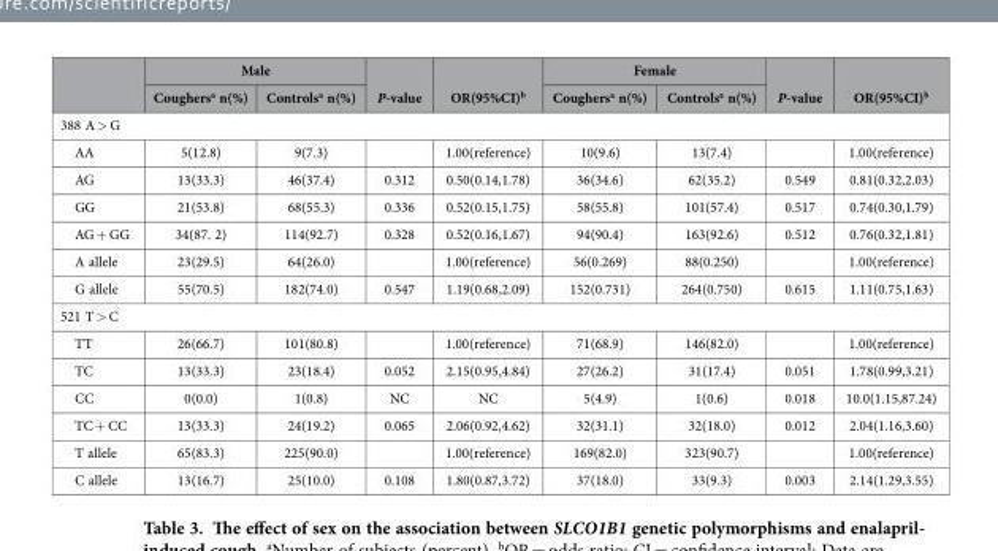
<table><thead><tr><td rowspan="2"></td><td colspan="2">Male</td><td rowspan="2">P-value</td><td rowspan="2">OR(95%CI)<sup>b</sup></td><td colspan="2">Female</td><td rowspan="2">P-value</td><td rowspan="2">OR(95%CI)<sup>b</sup></td></tr><tr><td>Coughers<sup>a</sup> n(%)</td><td>Controls<sup>a</sup> n(%)</td><td>Coughers<sup>a</sup> n(%)</td><td>Controls<sup>a</sup> n(%)</td></tr></thead><tbody><tr><td colspan="9">388 A &gt; G</td></tr><tr><td>AA</td><td>5(12.8)</td><td>9(7.3)</td><td></td><td>1.00(reference)</td><td>10(9.6)</td><td>13(7.4)</td><td></td><td>1.00(reference)</td></tr><tr><td>AG</td><td>13(33.3)</td><td>46(37.4)</td><td>0.312</td><td>0.50(0.14,1.78)</td><td>36(34.6)</td><td>62(35.2)</td><td>0.549</td><td>0.81(0.32,2.03)</td></tr><tr><td>GG</td><td>21(53.8)</td><td>68(55.3)</td><td>0.336</td><td>0.52(0.15,1.75)</td><td>58(55.8)</td><td>101(57.4)</td><td>0.517</td><td>0.74(0.30,1.79)</td></tr><tr><td>AG + GG</td><td>34(87. 2)</td><td>114(92.7)</td><td>0.328</td><td>0.52(0.16,1.67)</td><td>94(90.4)</td><td>163(92.6)</td><td>0.512</td><td>0.76(0.32,1.81)</td></tr><tr><td>A allele</td><td>23(29.5)</td><td>64(26.0)</td><td></td><td>1.00(reference)</td><td>56(0.269)</td><td>88(0.250)</td><td></td><td>1.00(reference)</td></tr><tr><td>G allele</td><td>55(70.5)</td><td>182(74.0)</td><td>0.547</td><td>1.19(0.68,2.09)</td><td>152(0.731)</td><td>264(0.750)</td><td>0.615</td><td>1.11(0.75,1.63)</td></tr><tr><td colspan="9">521 T &gt; C</td></tr><tr><td>TT</td><td>26(66.7)</td><td>101(80.8)</td><td></td><td>1.00(reference)</td><td>71(68.9)</td><td>146(82.0)</td><td></td><td>1.00(reference)</td></tr><tr><td>TC</td><td>13(33.3)</td><td>23(18.4)</td><td>0.052</td><td>2.15(0.95,4.84)</td><td>27(26.2)</td><td>31(17.4)</td><td>0.051</td><td>1.78(0.99,3.21)</td></tr><tr><td>CC</td><td>0(0.0)</td><td>1(0.8)</td><td>NC</td><td>NC</td><td>5(4.9)</td><td>1(0.6)</td><td>0.018</td><td>10.0(1.15,87.24)</td></tr><tr><td>TC + CC</td><td>13(33.3)</td><td>24(19.2)</td><td>0.065</td><td>2.06(0.92,4.62)</td><td>32(31.1)</td><td>32(18.0)</td><td>0.012</td><td>2.04(1.16,3.60)</td></tr><tr><td>T allele</td><td>65(83.3)</td><td>225(90.0)</td><td></td><td>1.00(reference)</td><td>169(82.0)</td><td>323(90.7)</td><td></td><td>1.00(reference)</td></tr><tr><td>C allele</td><td>13(16.7)</td><td>25(10.0)</td><td>0.108</td><td>1.80(0.87,3.72)</td><td>37(18.0)</td><td>33(9.3)</td><td>0.003</td><td>2.14(1.29,3.55)</td></tr></tbody></table>